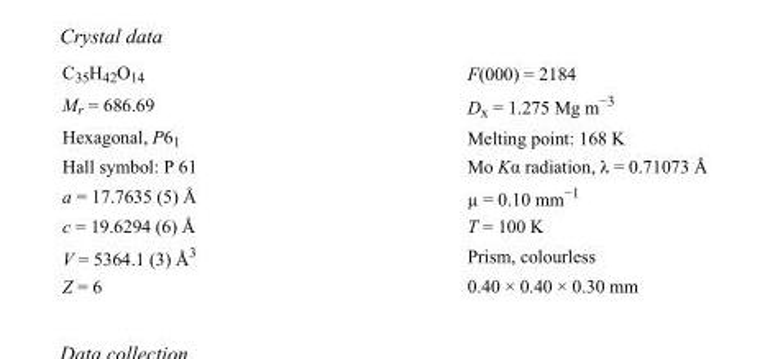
<table><tbody><tr><td>C<sub>35</sub>H<sub>42</sub>O<sub>14</sub></td><td>F(000) = 2184</td></tr><tr><td>M<sub>r</sub> = 686.69</td><td>D<sub>x</sub> = 1.275 Mg m<sup>−3</sup></td></tr><tr><td>Hexagonal, P6<sub>1</sub></td><td>Melting point: 168 K</td></tr><tr><td>Hall symbol: P 61</td><td>Mo Kα radiation, λ = 0.71073 Å</td></tr><tr><td>a = 17.7635 (5) Å</td><td>µ = 0.10 mm<sup>−1</sup></td></tr><tr><td>c = 19.6294 (6) Å</td><td>T = 100 K</td></tr><tr><td>V = 5364.1 (3) Å<sup>3</sup></td><td>Prism, colourless</td></tr><tr><td>Z = 6</td><td>0.40 × 0.40 × 0.30 mm</td></tr></tbody></table>